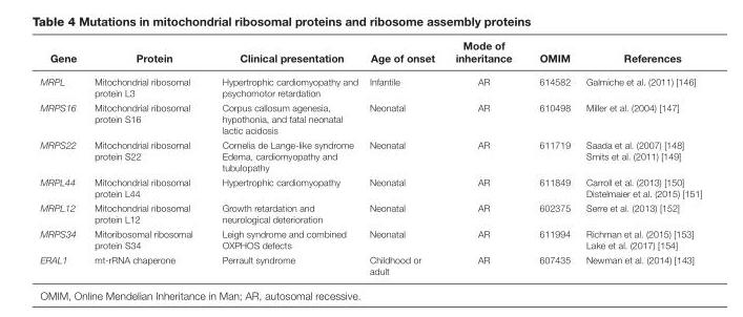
<table><thead><tr><td>Gene</td><td>Protein</td><td>Clinical presentation</td><td>Age of onset</td><td>Mode of inheritance</td><td>OMIM</td><td>References</td></tr></thead><tbody><tr><td>MRPL</td><td>Mitochondrial ribosomal protein L3</td><td>Hypertrophic cardiomyopathy and psychomotor retardation</td><td>Infantile</td><td>AR</td><td>614582</td><td>Galmiche et al. (2011) [146]</td></tr><tr><td>MRPS16</td><td>Mitochondrial ribosomal protein S16</td><td>Corpus callosum agenesia, hypothonia, and fatal neonatal lactic acidosis</td><td>Neonatal</td><td>AR</td><td>610498</td><td>Miller et al. (2004) [147]</td></tr><tr><td>MRPS22</td><td>Mitochondrial ribosomal protein S22</td><td>Cornelia de Lange-like syndrome Edema, cardiomyopathy and tubulopathy</td><td>Neonatal</td><td>AR</td><td>611719</td><td>Saada et al. (2007) [148] Smits et al. (2011) [149]</td></tr><tr><td>MRPL44</td><td>Mitochondrial ribosomal protein L44</td><td>Hypertrophic cardiomyopathy</td><td>Neonatal</td><td>AR</td><td>611849</td><td>Carroll et al. (2013) [150] Distelmaier et al. (2015) [151]</td></tr><tr><td>MRPL12</td><td>Mitochondrial ribosomal protein L12</td><td>Growth retardation and neurological deterioration</td><td>Neonatal</td><td>AR</td><td>602375</td><td>Serre et al. (2013) [152]</td></tr><tr><td>MRPS34</td><td>Mitoribosomal ribosomal protein S34</td><td>Leigh syndrome and combined OXPHOS defects</td><td>Neonatal</td><td>AR</td><td>611994</td><td>Richman et al. (2015) [153] Lake et al. (2017) [154]</td></tr><tr><td>ERAL1</td><td>mt-rRNA chaperone</td><td>Perrault syndrome</td><td>Childhood or adult</td><td>AR</td><td>607435</td><td>Newman et al. (2014) [143]</td></tr></tbody></table>